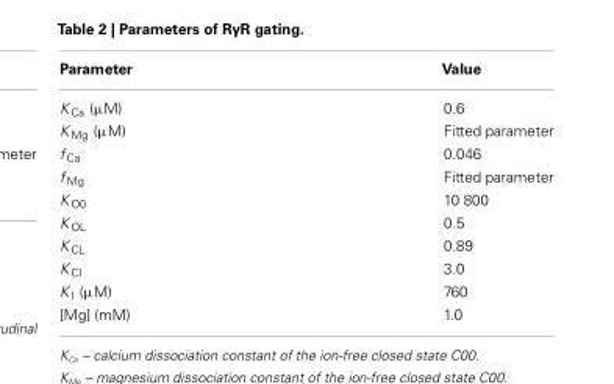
<table><thead><tr><td>Parameter</td><td>Value</td></tr></thead><tbody><tr><td>K <sub>Ca</sub> (µM)</td><td>0.6</td></tr><tr><td>K <sub>Mg</sub> (µM)</td><td>Fitted parameter</td></tr><tr><td>f <sub>Ca</sub></td><td>0.046</td></tr><tr><td>f <sub>Mg</sub></td><td>Fitted parameter</td></tr><tr><td>K <sub>O0</sub></td><td>10 800</td></tr><tr><td>K <sub>OL</sub></td><td>0.5</td></tr><tr><td>K <sub>CL</sub></td><td>0.89</td></tr><tr><td>K <sub>CI</sub></td><td>3.0</td></tr><tr><td>K <sub>I</sub> (µM)</td><td>760</td></tr><tr><td>[Mg] (mM)</td><td>1.0</td></tr></tbody></table>